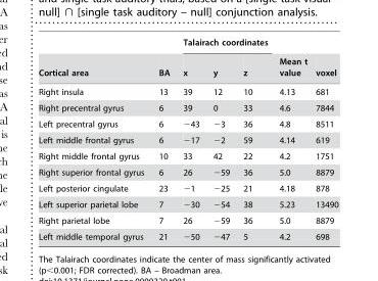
<table><thead><tr><td rowspan="2">Cortical area</td><td rowspan="2">BA</td><td colspan="3">Talairach coordinates</td><td rowspan="2">Mean t value</td><td rowspan="2">voxel</td></tr><tr><td>x</td><td>y</td><td>z</td></tr></thead><tbody><tr><td>Right insula</td><td>13</td><td>39</td><td>12</td><td>10</td><td>4.13</td><td>681</td></tr><tr><td>Right precentral gyrus</td><td>6</td><td>39</td><td>0</td><td>33</td><td>4.6</td><td>7844</td></tr><tr><td>Left precentral gyrus</td><td>6</td><td>−43</td><td>−3</td><td>36</td><td>4.8</td><td>8511</td></tr><tr><td>Left middle frontal gyrus</td><td>6</td><td>−17</td><td>−2</td><td>59</td><td>4.14</td><td>619</td></tr><tr><td>Right middle frontal gyrus</td><td>10</td><td>33</td><td>42</td><td>22</td><td>4.2</td><td>1751</td></tr><tr><td>Right superior frontal gyrus</td><td>6</td><td>26</td><td>−59</td><td>36</td><td>5.0</td><td>8879</td></tr><tr><td>Left posterior cingulate</td><td>23</td><td>−1</td><td>−25</td><td>21</td><td>4.18</td><td>878</td></tr><tr><td>Left superior parietal lobe</td><td>7</td><td>−30</td><td>−54</td><td>38</td><td>5.23</td><td>13490</td></tr><tr><td>Right parietal lobe</td><td>7</td><td>26</td><td>−59</td><td>36</td><td>5.0</td><td>8879</td></tr><tr><td>Left middle temporal gyrus</td><td>21</td><td>−50</td><td>−47</td><td>5</td><td>4.2</td><td>698</td></tr></tbody></table>